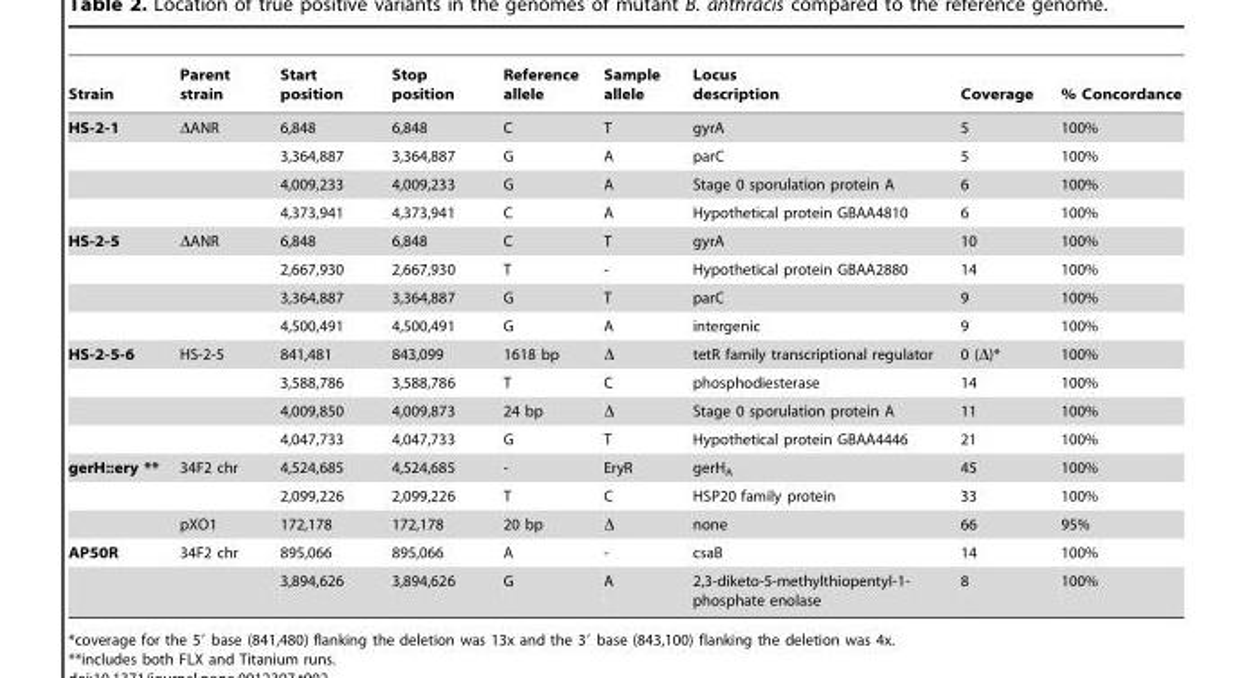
<table><thead><tr><td>Strain</td><td>Parent strain</td><td>Start position</td><td>Stop position</td><td>Reference allele</td><td>Sample allele</td><td>Locus description</td><td>Coverage</td><td>% Concordance</td></tr></thead><tbody><tr><td rowspan="4">HS-2-1</td><td>ΔANR</td><td>6,848</td><td>6,848</td><td>C</td><td>T</td><td>gyrA</td><td>5</td><td>100%</td></tr><tr><td></td><td>3,364,887</td><td>3,364,887</td><td>G</td><td>A</td><td>parC</td><td>5</td><td>100%</td></tr><tr><td></td><td>4,009,233</td><td>4,009,233</td><td>G</td><td>A</td><td>Stage 0 sporulation protein A</td><td>6</td><td>100%</td></tr><tr><td></td><td>4,373,941</td><td>4,373,941</td><td>C</td><td>A</td><td>Hypothetical protein GBAA4810</td><td>6</td><td>100%</td></tr><tr><td rowspan="4">HS-2-5</td><td>ΔANR</td><td>6,848</td><td>6,848</td><td>C</td><td>T</td><td>gyrA</td><td>10</td><td>100%</td></tr><tr><td></td><td>2,667,930</td><td>2,667,930</td><td>T</td><td>-</td><td>Hypothetical protein GBAA2880</td><td>14</td><td>100%</td></tr><tr><td></td><td>3,364,887</td><td>3,364,887</td><td>G</td><td>T</td><td>parC</td><td>9</td><td>100%</td></tr><tr><td></td><td>4,500,491</td><td>4,500,491</td><td>G</td><td>A</td><td>intergenic</td><td>9</td><td>100%</td></tr><tr><td rowspan="4">HS-2-5-6</td><td>HS-2-5</td><td>841,481</td><td>843,099</td><td>1618 bp</td><td>Δ</td><td>tetR family transcriptional regulator</td><td>0 (Δ)*</td><td>100%</td></tr><tr><td></td><td>3,588,786</td><td>3,588,786</td><td>T</td><td>C</td><td>phosphodiesterase</td><td>14</td><td>100%</td></tr><tr><td></td><td>4,009,850</td><td>4,009,873</td><td>24 bp</td><td>Δ</td><td>Stage 0 sporulation protein A</td><td>11</td><td>100%</td></tr><tr><td></td><td>4,047,733</td><td>4,047,733</td><td>G</td><td>T</td><td>Hypothetical protein GBAA4446</td><td>21</td><td>100%</td></tr><tr><td rowspan="3">gerH::ery **</td><td>34F2 chr</td><td>4,524,685</td><td>4,524,685</td><td>-</td><td>EryR</td><td>gerH<sub>A</sub></td><td>45</td><td>100%</td></tr><tr><td></td><td>2,099,226</td><td>2,099,226</td><td>T</td><td>C</td><td>HSP20 family protein</td><td>33</td><td>100%</td></tr><tr><td>pXO1</td><td>172,178</td><td>172,178</td><td>20 bp</td><td>Δ</td><td>none</td><td>66</td><td>95%</td></tr><tr><td rowspan="2">AP50R</td><td>34F2 chr</td><td>895,066</td><td>895,066</td><td>A</td><td>-</td><td>csaB</td><td>14</td><td>100%</td></tr><tr><td></td><td>3,894,626</td><td>3,894,626</td><td>G</td><td>A</td><td>2,3-diketo-5-methylthiopentyl-1- phosphate enolase</td><td>8</td><td>100%</td></tr></tbody></table>